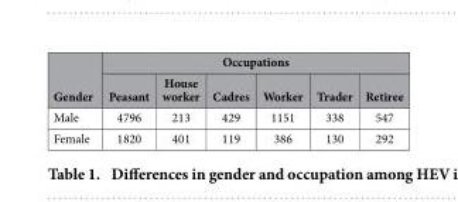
<table><thead><tr><td rowspan="2">Gender</td><td colspan="6">Occupations</td></tr><tr><td>Peasant</td><td>House worker</td><td>Cadres</td><td>Worker</td><td>Trader</td><td>Retiree</td></tr></thead><tbody><tr><td>Male</td><td>4796</td><td>213</td><td>429</td><td>1151</td><td>338</td><td>547</td></tr><tr><td>Female</td><td>1820</td><td>401</td><td>119</td><td>386</td><td>130</td><td>292</td></tr></tbody></table>